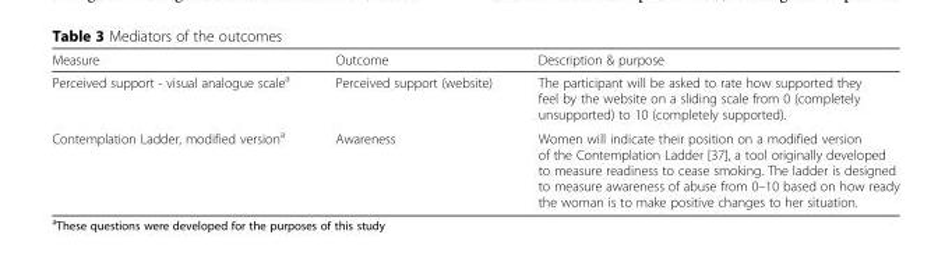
<table><thead><tr><td>Measure</td><td>Outcome</td><td>Description &amp; purpose</td></tr></thead><tbody><tr><td>Perceived support - visual analogue scale<sup>a</sup></td><td>Perceived support (website)</td><td>The participant will be asked to rate how supported they feel by the website on a sliding scale from 0 (completely unsupported) to 10 (completely supported).</td></tr><tr><td>Contemplation Ladder, modified version<sup>a</sup></td><td>Awareness</td><td>Women will indicate their position on a modified version of the Contemplation Ladder [37], a tool originally developed to measure readiness to cease smoking. The ladder is designed to measure awareness of abuse from 0–10 based on how ready the woman is to make positive changes to her situation.</td></tr></tbody></table>